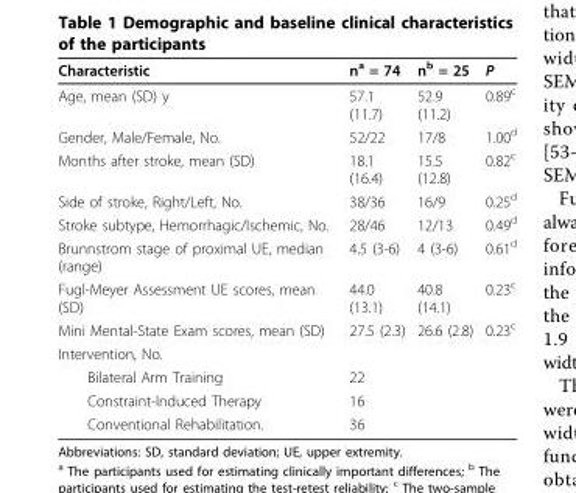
<table><thead><tr><td>Characteristic</td><td>n<sup>a</sup> = 74</td><td>n<sup>b</sup> = 25</td><td>P</td></tr></thead><tbody><tr><td>Age, mean (SD) y</td><td>57.1 (11.7)</td><td>52.9 (11.2)</td><td>0.89<sup>c</sup></td></tr><tr><td>Gender, Male/Female, No.</td><td>52/22</td><td>17/8</td><td>1.00<sup>d</sup></td></tr><tr><td>Months after stroke, mean (SD)</td><td>18.1 (16.4)</td><td>15.5 (12.8)</td><td>0.82<sup>c</sup></td></tr><tr><td>Side of stroke, Right/Left, No.</td><td>38/36</td><td>16/9</td><td>0.25<sup>d</sup></td></tr><tr><td>Stroke subtype, Hemorrhagic/Ischemic, No.</td><td>28/46</td><td>12/13</td><td>0.49<sup>d</sup></td></tr><tr><td>Brunnstrom stage of proximal UE, median (range)</td><td>4.5 (3-6)</td><td>4 (3-6)</td><td>0.61<sup>d</sup></td></tr><tr><td>Fugl-Meyer Assessment UE scores, mean (SD)</td><td>44.0 (13.1)</td><td>40.8 (14.1)</td><td>0.23<sup>c</sup></td></tr><tr><td>Mini Mental-State Exam scores, mean (SD)</td><td>27.5 (2.3)</td><td>26.6 (2.8)</td><td>0.23<sup>c</sup></td></tr><tr><td colspan="4">Intervention, No.</td></tr><tr><td>Bilateral Arm Training</td><td>22</td><td></td><td></td></tr><tr><td>Constraint-Induced Therapy</td><td>16</td><td></td><td></td></tr><tr><td>Conventional Rehabilitation.</td><td>36</td><td></td><td></td></tr></tbody></table>